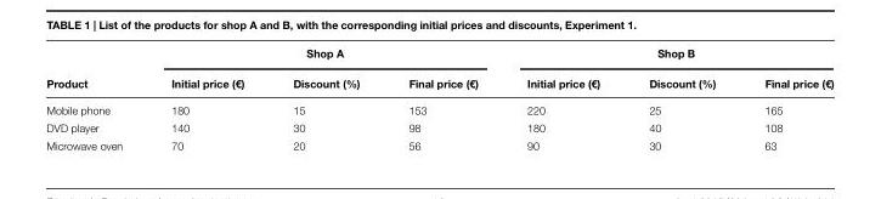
<table><thead><tr><td rowspan="2">Product</td><td colspan="3">Shop A</td><td colspan="3">Shop B</td></tr><tr><td>Initial price (€)</td><td>Discount (%)</td><td>Final price (€)</td><td>Initial price (€)</td><td>Discount (%)</td><td>Final price (€)</td></tr></thead><tbody><tr><td>Mobile phone</td><td>180</td><td>15</td><td>153</td><td>220</td><td>25</td><td>165</td></tr><tr><td>DVD player</td><td>140</td><td>30</td><td>98</td><td>180</td><td>40</td><td>108</td></tr><tr><td>Microwave oven</td><td>70</td><td>20</td><td>56</td><td>90</td><td>30</td><td>63</td></tr></tbody></table>